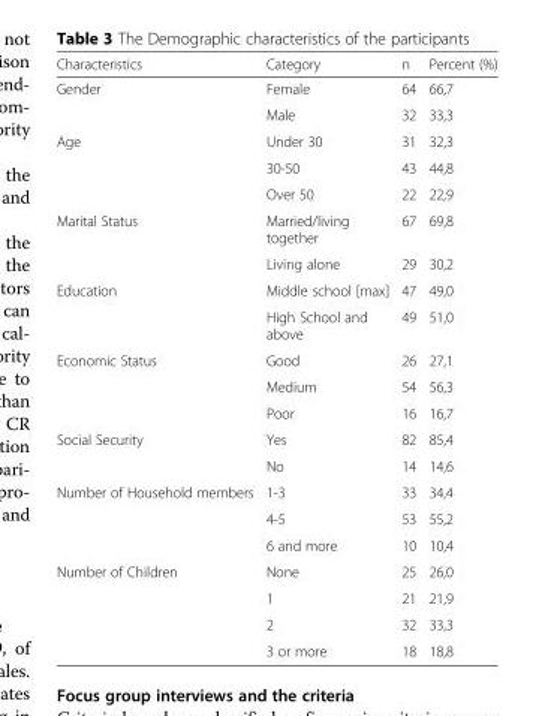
<table><thead><tr><td>Characteristics</td><td>Category</td><td>n</td><td>Percent (%)</td></tr></thead><tbody><tr><td rowspan="2">Gender</td><td>Female</td><td>64</td><td>66,7</td></tr><tr><td>Male</td><td>32</td><td>33,3</td></tr><tr><td rowspan="3">Age</td><td>Under 30</td><td>31</td><td>32,3</td></tr><tr><td>30-50</td><td>43</td><td>44,8</td></tr><tr><td>Over 50</td><td>22</td><td>22,9</td></tr><tr><td rowspan="2">Marital Status</td><td>Married/living together</td><td>67</td><td>69,8</td></tr><tr><td>Living alone</td><td>29</td><td>30,2</td></tr><tr><td rowspan="2">Education</td><td>Middle school [max]</td><td>47</td><td>49,0</td></tr><tr><td>High School and above</td><td>49</td><td>51,0</td></tr><tr><td rowspan="3">Economic Status</td><td>Good</td><td>26</td><td>27,1</td></tr><tr><td>Medium</td><td>54</td><td>56,3</td></tr><tr><td>Poor</td><td>16</td><td>16,7</td></tr><tr><td rowspan="2">Social Security</td><td>Yes</td><td>82</td><td>85,4</td></tr><tr><td>No</td><td>14</td><td>14,6</td></tr><tr><td rowspan="3">Number of Household members</td><td>1-3</td><td>33</td><td>34,4</td></tr><tr><td>4-5</td><td>53</td><td>55,2</td></tr><tr><td>6 and more</td><td>10</td><td>10,4</td></tr><tr><td rowspan="4">Number of Children</td><td>None</td><td>25</td><td>26,0</td></tr><tr><td>1</td><td>21</td><td>21,9</td></tr><tr><td>2</td><td>32</td><td>33,3</td></tr><tr><td>3 or more</td><td>18</td><td>18,8</td></tr></tbody></table>